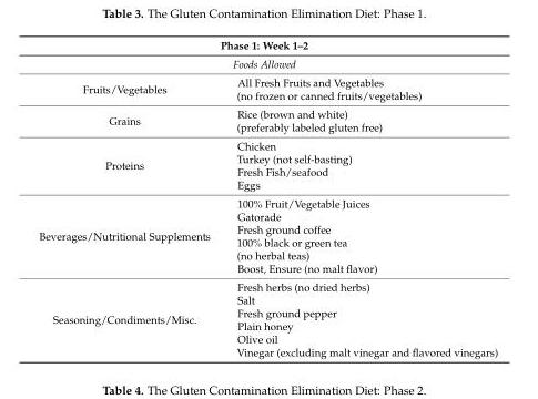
<table><thead><tr><td rowspan="2" colspan="2">Phase 1: Week 1–2 Foods Allowed</td></tr><tr></tr><tr><td>Fruits/Vegetables</td><td>All Fresh Fruits and Vegetables (no frozen or canned fruits/vegetables)</td></tr></thead><tbody><tr><td>Grains</td><td>Rice (brown and white) (preferably labeled gluten free)</td></tr><tr><td>Proteins</td><td>Chicken Turkey (not self-basting) Fresh Fish/seafood Eggs</td></tr><tr><td>Beverages/Nutritional Supplements</td><td>100% Fruit/Vegetable Juices Gatorade Fresh ground coffee 100% black or green tea (no herbal teas) Boost, Ensure (no malt flavor)</td></tr><tr><td>Seasoning/Condiments/Misc.</td><td>Fresh herbs (no dried herbs) Salt Fresh ground pepper Plain honey Olive oil Vinegar (excluding malt vinegar and flavored vinegars)</td></tr></tbody></table>